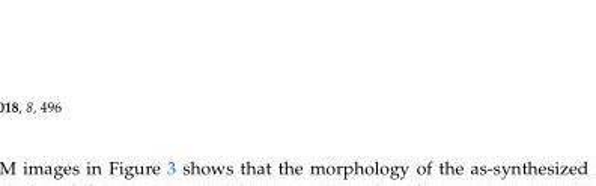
<table><thead><tr><td>Sample</td><td>Hydrodynamic Size (nm)</td><td>Zeta Potential (mV)</td></tr></thead><tbody><tr><td>S1</td><td>54.4 ± 9.1</td><td>−11.65</td></tr><tr><td>S2</td><td>28.7 ± 3.4</td><td>−14.10</td></tr><tr><td>S3</td><td>17.9 ± 1.5</td><td>−17.52</td></tr></tbody></table>